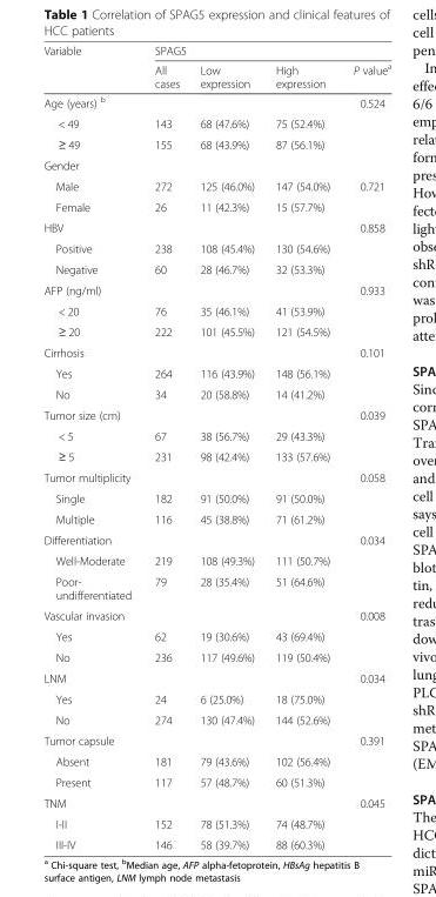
<table><thead><tr><td rowspan="2">Variable</td><td colspan="4">SPAG5</td></tr><tr><td>All cases</td><td>Low expression</td><td>High expression</td><td>P value<sup>a</sup></td></tr></thead><tbody><tr><td>Age (years) <sup>b</sup></td><td></td><td></td><td></td><td>0.524</td></tr><tr><td>&lt; 49</td><td>143</td><td>68 (47.6%)</td><td>75 (52.4%)</td><td></td></tr><tr><td>≥ 49</td><td>155</td><td>68 (43.9%)</td><td>87 (56.1%)</td><td></td></tr><tr><td colspan="5">Gender</td></tr><tr><td>Male</td><td>272</td><td>125 (46.0%)</td><td>147 (54.0%)</td><td>0.721</td></tr><tr><td>Female</td><td>26</td><td>11 (42.3%)</td><td>15 (57.7%)</td><td></td></tr><tr><td>HBV</td><td></td><td></td><td></td><td>0.858</td></tr><tr><td>Positive</td><td>238</td><td>108 (45.4%)</td><td>130 (54.6%)</td><td></td></tr><tr><td>Negative</td><td>60</td><td>28 (46.7%)</td><td>32 (53.3%)</td><td></td></tr><tr><td>AFP (ng/ml)</td><td></td><td></td><td></td><td>0.933</td></tr><tr><td>&lt; 20</td><td>76</td><td>35 (46.1%)</td><td>41 (53.9%)</td><td></td></tr><tr><td>≥ 20</td><td>222</td><td>101 (45.5%)</td><td>121 (54.5%)</td><td></td></tr><tr><td>Cirrhosis</td><td></td><td></td><td></td><td>0.101</td></tr><tr><td>Yes</td><td>264</td><td>116 (43.9%)</td><td>148 (56.1%)</td><td></td></tr><tr><td>No</td><td>34</td><td>20 (58.8%)</td><td>14 (41.2%)</td><td></td></tr><tr><td>Tumor size (cm)</td><td></td><td></td><td></td><td>0.039</td></tr><tr><td>&lt; 5</td><td>67</td><td>38 (56.7%)</td><td>29 (43.3%)</td><td></td></tr><tr><td>≥ 5</td><td>231</td><td>98 (42.4%)</td><td>133 (57.6%)</td><td></td></tr><tr><td>Tumor multiplicity</td><td></td><td></td><td></td><td>0.058</td></tr><tr><td>Single</td><td>182</td><td>91 (50.0%)</td><td>91 (50.0%)</td><td></td></tr><tr><td>Multiple</td><td>116</td><td>45 (38.8%)</td><td>71 (61.2%)</td><td></td></tr><tr><td>Differentiation</td><td></td><td></td><td></td><td>0.034</td></tr><tr><td>Well-Moderate</td><td>219</td><td>108 (49.3%)</td><td>111 (50.7%)</td><td></td></tr><tr><td>Poor- undifferentiated</td><td>79</td><td>28 (35.4%)</td><td>51 (64.6%)</td><td></td></tr><tr><td>Vascular invasion</td><td></td><td></td><td></td><td>0.008</td></tr><tr><td>Yes</td><td>62</td><td>19 (30.6%)</td><td>43 (69.4%)</td><td></td></tr><tr><td>No</td><td>236</td><td>117 (49.6%)</td><td>119 (50.4%)</td><td></td></tr><tr><td>LNM</td><td></td><td></td><td></td><td>0.034</td></tr><tr><td>Yes</td><td>24</td><td>6 (25.0%)</td><td>18 (75.0%)</td><td></td></tr><tr><td>No</td><td>274</td><td>130 (47.4%)</td><td>144 (52.6%)</td><td></td></tr><tr><td>Tumor capsule</td><td></td><td></td><td></td><td>0.391</td></tr><tr><td>Absent</td><td>181</td><td>79 (43.6%)</td><td>102 (56.4%)</td><td></td></tr><tr><td>Present</td><td>117</td><td>57 (48.7%)</td><td>60 (51.3%)</td><td></td></tr><tr><td>TNM</td><td></td><td></td><td></td><td>0.045</td></tr><tr><td>I-II</td><td>152</td><td>78 (51.3%)</td><td>74 (48.7%)</td><td></td></tr><tr><td>III-IV</td><td>146</td><td>58 (39.7%)</td><td>88 (60.3%)</td><td></td></tr></tbody></table>